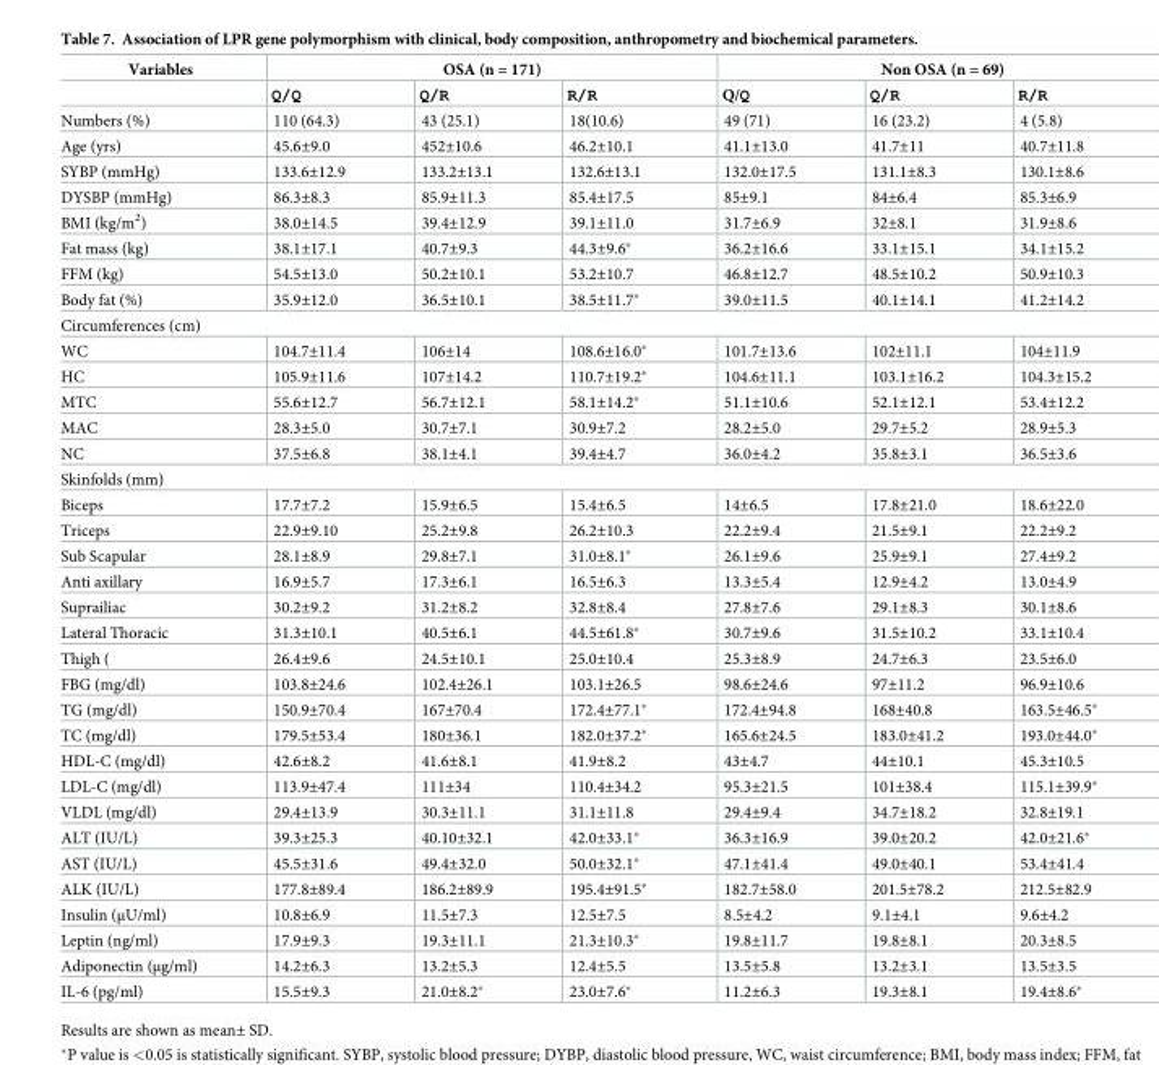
<table><thead><tr><td rowspan="2">Variables</td><td colspan="3">OSA (n = 171)</td><td colspan="3">Non OSA (n = 69)</td></tr><tr><td>Q/Q</td><td>Q/R</td><td>R/R</td><td>Q/Q</td><td>Q/R</td><td>R/R</td></tr></thead><tbody><tr><td>Numbers (%)</td><td>110 (64.3)</td><td>43 (25.1)</td><td>18(10.6)</td><td>49 (71)</td><td>16 (23.2)</td><td>4 (5.8)</td></tr><tr><td>Age (yrs)</td><td>45.6±9.0</td><td>452±10.6</td><td>46.2±10.1</td><td>41.1±13.0</td><td>41.7±11</td><td>40.7±11.8</td></tr><tr><td>SYBP (mmHg)</td><td>133.6±12.9</td><td>133.2±13.1</td><td>132.6±13.1</td><td>132.0±17.5</td><td>131.1±8.3</td><td>130.1±8.6</td></tr><tr><td>DYSBP (mmHg)</td><td>86.3±8.3</td><td>85.9±11.3</td><td>85.4±17.5</td><td>85±9.1</td><td>84±6.4</td><td>85.3±6.9</td></tr><tr><td>BMI (kg/m<sup>2</sup>)</td><td>38.0±14.5</td><td>39.4±12.9</td><td>39.1±11.0</td><td>31.7±6.9</td><td>32±8.1</td><td>31.9±8.6</td></tr><tr><td>Fat mass (kg)</td><td>38.1±17.1</td><td>40.7±9.3</td><td>44.3±9.6*</td><td>36.2±16.6</td><td>33.1±15.1</td><td>34.1±15.2</td></tr><tr><td>FFM (kg)</td><td>54.5±13.0</td><td>50.2±10.1</td><td>53.2±10.7</td><td>46.8±12.7</td><td>48.5±10.2</td><td>50.9±10.3</td></tr><tr><td>Body fat (%)</td><td>35.9±12.0</td><td>36.5±10.1</td><td>38.5±11.7*</td><td>39.0±11.5</td><td>40.1±14.1</td><td>41.2±14.2</td></tr><tr><td colspan="7">Circumferences (cm)</td></tr><tr><td>WC</td><td>104.7±11.4</td><td>106±14</td><td>108.6±16.0*</td><td>101.7±13.6</td><td>102±11.1</td><td>104±11.9</td></tr><tr><td>HC</td><td>105.9±11.6</td><td>107±14.2</td><td>110.7±19.2*</td><td>104.6±11.1</td><td>103.1±16.2</td><td>104.3±15.2</td></tr><tr><td>MTC</td><td>55.6±12.7</td><td>56.7±12.1</td><td>58.1±14.2*</td><td>51.1±10.6</td><td>52.1±12.1</td><td>53.4±12.2</td></tr><tr><td>MAC</td><td>28.3±5.0</td><td>30.7±7.1</td><td>30.9±7.2</td><td>28.2±5.0</td><td>29.7±5.2</td><td>28.9±5.3</td></tr><tr><td>NC</td><td>37.5±6.8</td><td>38.1±4.1</td><td>39.4±4.7</td><td>36.0±4.2</td><td>35.8±3.1</td><td>36.5±3.6</td></tr><tr><td colspan="7">Skinfolds (mm)</td></tr><tr><td>Biceps</td><td>17.7±7.2</td><td>15.9±6.5</td><td>15.4±6.5</td><td>14±6.5</td><td>17.8±21.0</td><td>18.6±22.0</td></tr><tr><td>Triceps</td><td>22.9±9.10</td><td>25.2±9.8</td><td>26.2±10.3</td><td>22.2±9.4</td><td>21.5±9.1</td><td>22.2±9.2</td></tr><tr><td>Sub Scapular</td><td>28.1±8.9</td><td>29.8±7.1</td><td>31.0±8.1*</td><td>26.1±9.6</td><td>25.9±9.1</td><td>27.4±9.2</td></tr><tr><td>Anti axillary</td><td>16.9±5.7</td><td>17.3±6.1</td><td>16.5±6.3</td><td>13.3±5.4</td><td>12.9±4.2</td><td>13.0±4.9</td></tr><tr><td>Suprailiac</td><td>30.2±9.2</td><td>31.2±8.2</td><td>32.8±8.4</td><td>27.8±7.6</td><td>29.1±8.3</td><td>30.1±8.6</td></tr><tr><td>Lateral Thoracic</td><td>31.3±10.1</td><td>40.5±6.1</td><td>44.5±61.8*</td><td>30.7±9.6</td><td>31.5±10.2</td><td>33.1±10.4</td></tr><tr><td>Thigh (</td><td>26.4±9.6</td><td>24.5±10.1</td><td>25.0±10.4</td><td>25.3±8.9</td><td>24.7±6.3</td><td>23.5±6.0</td></tr><tr><td>FBG (mg/dl)</td><td>103.8±24.6</td><td>102.4±26.1</td><td>103.1±26.5</td><td>98.6±24.6</td><td>97±11.2</td><td>96.9±10.6</td></tr><tr><td>TG (mg/dl)</td><td>150.9±70.4</td><td>167±70.4</td><td>172.4±77.1*</td><td>172.4±94.8</td><td>168±40.8</td><td>163.5±46.5*</td></tr><tr><td>TC (mg/dl)</td><td>179.5±53.4</td><td>180±36.1</td><td>182.0±37.2*</td><td>165.6±24.5</td><td>183.0±41.2</td><td>193.0±44.0*</td></tr><tr><td>HDL-C (mg/dl)</td><td>42.6±8.2</td><td>41.6±8.1</td><td>41.9±8.2</td><td>43±4.7</td><td>44±10.1</td><td>45.3±10.5</td></tr><tr><td>LDL-C (mg/dl)</td><td>113.9±47.4</td><td>111±34</td><td>110.4±34.2</td><td>95.3±21.5</td><td>101±38.4</td><td>115.1±39.9*</td></tr><tr><td>VLDL (mg/dl)</td><td>29.4±13.9</td><td>30.3±11.1</td><td>31.1±11.8</td><td>29.4±9.4</td><td>34.7±18.2</td><td>32.8±19.1</td></tr><tr><td>ALT (IU/L)</td><td>39.3±25.3</td><td>40.10±32.1</td><td>42.0±33.1*</td><td>36.3±16.9</td><td>39.0±20.2</td><td>42.0±21.6*</td></tr><tr><td>AST (IU/L)</td><td>45.5±31.6</td><td>49.4±32.0</td><td>50.0±32.1*</td><td>47.1±41.4</td><td>49.0±40.1</td><td>53.4±41.4</td></tr><tr><td>ALK (IU/L)</td><td>177.8±89.4</td><td>186.2±89.9</td><td>195.4±91.5*</td><td>182.7±58.0</td><td>201.5±78.2</td><td>212.5±82.9</td></tr><tr><td>Insulin (μU/ml)</td><td>10.8±6.9</td><td>11.5±7.3</td><td>12.5±7.5</td><td>8.5±4.2</td><td>9.1±4.1</td><td>9.6±4.2</td></tr><tr><td>Leptin (ng/ml)</td><td>17.9±9.3</td><td>19.3±11.1</td><td>21.3±10.3*</td><td>19.8±11.7</td><td>19.8±8.1</td><td>20.3±8.5</td></tr><tr><td>Adiponectin (μg/ml)</td><td>14.2±6.3</td><td>13.2±5.3</td><td>12.4±5.5</td><td>13.5±5.8</td><td>13.2±3.1</td><td>13.5±3.5</td></tr><tr><td>IL-6 (pg/ml)</td><td>15.5±9.3</td><td>21.0±8.2*</td><td>23.0±7.6*</td><td>11.2±6.3</td><td>19.3±8.1</td><td>19.4±8.6*</td></tr></tbody></table>